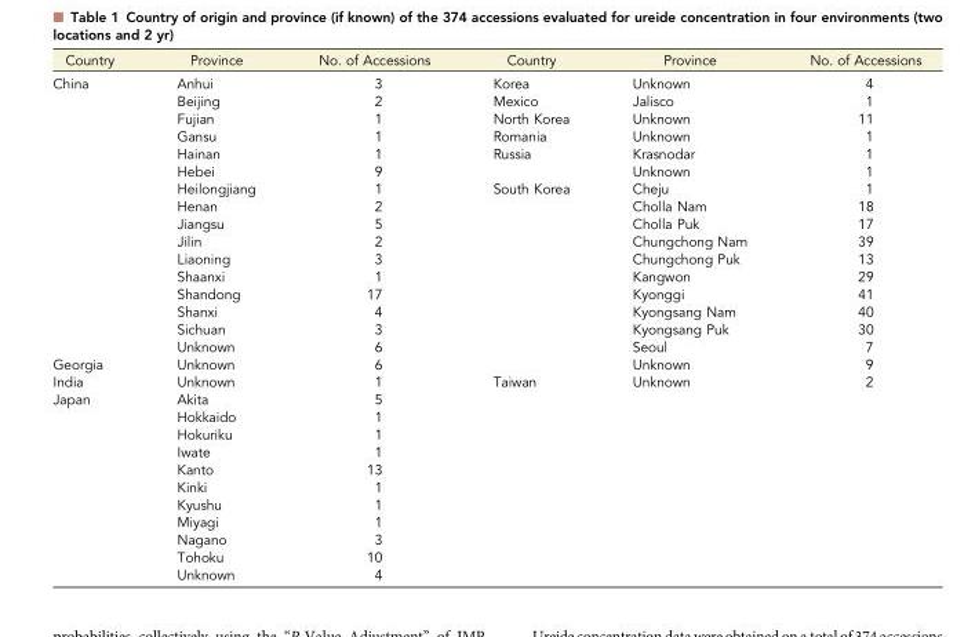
<table><thead><tr><td>Country</td><td>Province</td><td>No. of Accessions</td><td>Country</td><td>Province</td><td>No. of Accessions</td></tr></thead><tbody><tr><td rowspan="16">China</td><td>Anhui</td><td>3</td><td>Korea</td><td>Unknown</td><td>4</td></tr><tr><td>Beijing</td><td>2</td><td>Mexico</td><td>Jalisco</td><td>1</td></tr><tr><td>Fujian</td><td>1</td><td>North Korea</td><td>Unknown</td><td>11</td></tr><tr><td>Gansu</td><td>1</td><td>Romania</td><td>Unknown</td><td>1</td></tr><tr><td>Hainan</td><td>1</td><td>Russia</td><td>Krasnodar</td><td>1</td></tr><tr><td>Hebei</td><td>9</td><td></td><td>Unknown</td><td>1</td></tr><tr><td>Heilongjiang</td><td>1</td><td>South Korea</td><td>Cheju</td><td>1</td></tr><tr><td>Henan</td><td>2</td><td></td><td>Cholla Nam</td><td>18</td></tr><tr><td>Jiangsu</td><td>5</td><td></td><td>Cholla Puk</td><td>17</td></tr><tr><td>Jilin</td><td>2</td><td></td><td>Chungchong Nam</td><td>39</td></tr><tr><td>Liaoning</td><td>3</td><td></td><td>Chungchong Puk</td><td>13</td></tr><tr><td>Shaanxi</td><td>1</td><td></td><td>Kangwon</td><td>29</td></tr><tr><td>Shandong</td><td>17</td><td></td><td>Kyonggi</td><td>41</td></tr><tr><td>Shanxi</td><td>4</td><td></td><td>Kyongsang Nam</td><td>40</td></tr><tr><td>Sichuan</td><td>3</td><td></td><td>Kyongsang Puk</td><td>30</td></tr><tr><td>Unknown</td><td>6</td><td></td><td>Seoul</td><td>7</td></tr><tr><td>Georgia</td><td>Unknown</td><td>6</td><td></td><td>Unknown</td><td>9</td></tr><tr><td>India</td><td>Unknown</td><td>1</td><td>Taiwan</td><td>Unknown</td><td>2</td></tr><tr><td rowspan="11">Japan</td><td>Akita</td><td>5</td><td></td><td></td><td></td></tr><tr><td>Hokkaido</td><td>1</td><td></td><td></td><td></td></tr><tr><td>Hokuriku</td><td>1</td><td></td><td></td><td></td></tr><tr><td>Iwate</td><td>1</td><td></td><td></td><td></td></tr><tr><td>Kanto</td><td>13</td><td></td><td></td><td></td></tr><tr><td>Kinki</td><td>1</td><td></td><td></td><td></td></tr><tr><td>Kyushu</td><td>1</td><td></td><td></td><td></td></tr><tr><td>Miyagi</td><td>1</td><td></td><td></td><td></td></tr><tr><td>Nagano</td><td>3</td><td></td><td></td><td></td></tr><tr><td>Tohoku</td><td>10</td><td></td><td></td><td></td></tr><tr><td>Unknown</td><td>4</td><td></td><td></td><td></td></tr></tbody></table>